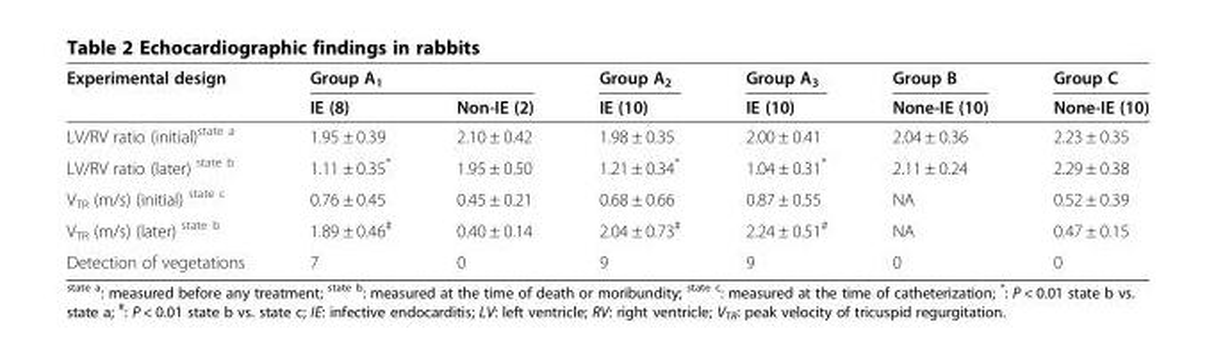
<table><thead><tr><td rowspan="2">Experimental design</td><td rowspan="2">Group A<sub>1</sub> IE (8)</td><td rowspan="2">Non-IE (2)</td><td rowspan="2">Group A<sub>2</sub> IE (10)</td><td rowspan="2">Group A<sub>3</sub> IE (10)</td><td rowspan="2">Group B None-IE (10)</td><td rowspan="2">Group C None-IE (10)</td></tr><tr></tr></thead><tbody><tr><td>LV/RV ratio (initial)<sup>state a</sup></td><td>1.95 ± 0.39</td><td>2.10 ± 0.42</td><td>1.98 ± 0.35</td><td>2.00 ± 0.41</td><td>2.04 ± 0.36</td><td>2.23 ± 0.35</td></tr><tr><td>LV/RV ratio (later) <sup>state b</sup></td><td>1.11 ± 0.35*</td><td>1.95 ± 0.50</td><td>1.21 ± 0.34*</td><td>1.04 ± 0.31*</td><td>2.11 ± 0.24</td><td>2.29 ± 0.38</td></tr><tr><td>V<sub>TR</sub> (m/s) (initial) <sup>state c</sup></td><td>0.76 ± 0.45</td><td>0.45 ± 0.21</td><td>0.68 ± 0.66</td><td>0.87 ± 0.55</td><td>NA</td><td>0.52 ± 0.39</td></tr><tr><td>V<sub>TR</sub> (m/s) (later) <sup>state b</sup></td><td>1.89 ± 0.46<sup>#</sup></td><td>0.40 ± 0.14</td><td>2.04 ± 0.73<sup>#</sup></td><td>2.24 ± 0.51<sup>#</sup></td><td>NA</td><td>0.47 ± 0.15</td></tr><tr><td>Detection of vegetations</td><td>7</td><td>0</td><td>9</td><td>9</td><td>0</td><td>0</td></tr></tbody></table>